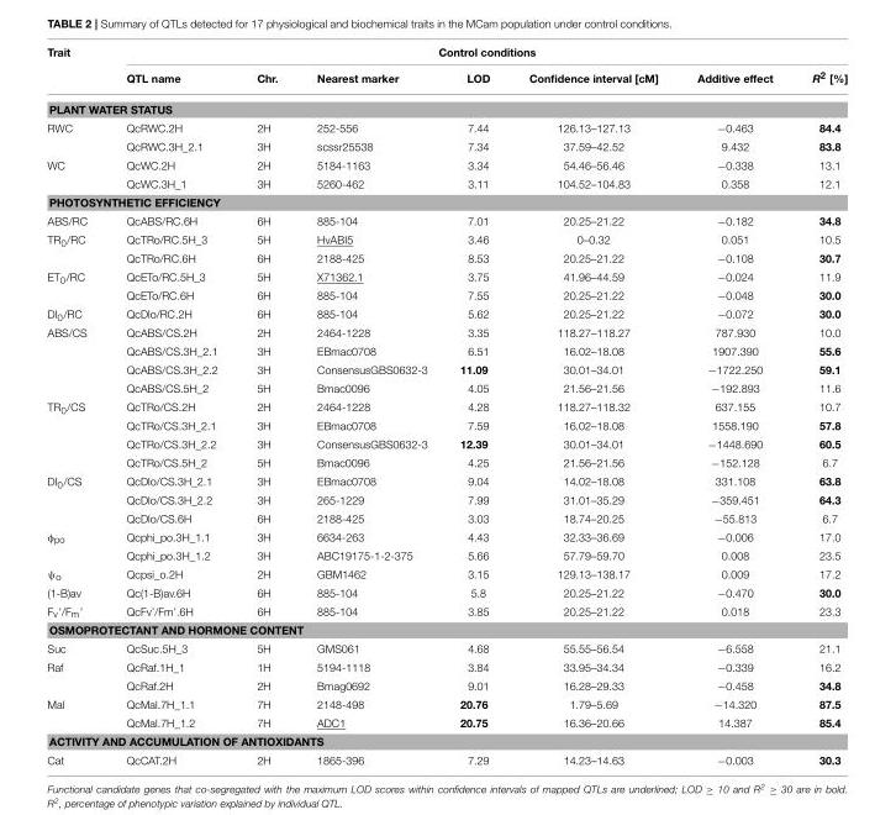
<table><thead><tr><td rowspan="2">Trait</td><td colspan="7">Control conditions</td></tr><tr><td>QTL name</td><td>Chr.</td><td>Nearest marker</td><td>LOD</td><td>Confidence interval [cM]</td><td>Additive effect</td><td>R<sup>2</sup> [%]</td></tr></thead><tbody><tr><td colspan="8">PLANT WATER STATUS</td></tr><tr><td rowspan="2">RWC</td><td>QcRWC.2H</td><td>2H</td><td>252-556</td><td>7.44</td><td>126.13–127.13</td><td>−0.463</td><td>84.4</td></tr><tr><td>QcRWC.3H_2.1</td><td>3H</td><td>scssr25538</td><td>7.34</td><td>37.59–42.52</td><td>9.432</td><td>83.8</td></tr><tr><td rowspan="2">WC</td><td>QcWC.2H</td><td>2H</td><td>5184-1163</td><td>3.34</td><td>54.46–56.46</td><td>−0.338</td><td>13.1</td></tr><tr><td>QcWC.3H_1</td><td>3H</td><td>5260-462</td><td>3.11</td><td>104.52–104.83</td><td>0.358</td><td>12.1</td></tr><tr><td colspan="8">PHOTOSYNTHETIC EFFICIENCY</td></tr><tr><td>ABS/RC</td><td>QcABS/RC.6H</td><td>6H</td><td>885-104</td><td>7.01</td><td>20.25–21.22</td><td>−0.182</td><td>34.8</td></tr><tr><td rowspan="2">TR<sub>0</sub>/RC</td><td>QcTRo/RC.5H_3</td><td>5H</td><td>HvABI5</td><td>3.46</td><td>0–0.32</td><td>0.051</td><td>10.5</td></tr><tr><td>QcTRo/RC.6H</td><td>6H</td><td>2188-425</td><td>8.53</td><td>20.25–21.22</td><td>−0.108</td><td>30.7</td></tr><tr><td rowspan="2">ET<sub>0</sub>/RC</td><td>QcETo/RC.5H_3</td><td>5H</td><td>X71362.1</td><td>3.75</td><td>41.96–44.59</td><td>−0.024</td><td>11.9</td></tr><tr><td>QcETo/RC.6H</td><td>6H</td><td>885-104</td><td>7.55</td><td>20.25–21.22</td><td>−0.048</td><td>30.0</td></tr><tr><td>DI<sub>0</sub>/RC</td><td>QcDlo/RC.2H</td><td>6H</td><td>885-104</td><td>5.62</td><td>20.25–21.22</td><td>−0.072</td><td>30.0</td></tr><tr><td rowspan="4">ABS/CS</td><td>QcABS/CS.2H</td><td>2H</td><td>2464-1228</td><td>3.35</td><td>118.27–118.27</td><td>787.930</td><td>10.0</td></tr><tr><td>QcABS/CS.3H_2.1</td><td>3H</td><td>EBmac0708</td><td>6.51</td><td>16.02–18.08</td><td>1907.390</td><td>55.6</td></tr><tr><td>QcABS/CS.3H_2.2</td><td>3H</td><td>ConsensusGBS0632-3</td><td>11.09</td><td>30.01–34.01</td><td>−1722.250</td><td>59.1</td></tr><tr><td>QcABS/CS.5H_2</td><td>5H</td><td>Bmac0096</td><td>4.05</td><td>21.56–21.56</td><td>−192.893</td><td>11.6</td></tr><tr><td rowspan="4">TR<sub>0</sub>/CS</td><td>QcTRo/CS.2H</td><td>2H</td><td>2464-1228</td><td>4.28</td><td>118.27–118.32</td><td>637.155</td><td>10.7</td></tr><tr><td>QcTRo/CS.3H_2.1</td><td>3H</td><td>EBmac0708</td><td>7.59</td><td>16.02–18.08</td><td>1558.190</td><td>57.8</td></tr><tr><td>QcTRo/CS.3H_2.2</td><td>3H</td><td>ConsensusGBS0632-3</td><td>12.39</td><td>30.01–34.01</td><td>−1448.690</td><td>60.5</td></tr><tr><td>QcTRo/CS.5H_2</td><td>5H</td><td>Bmac0096</td><td>4.25</td><td>21.56–21.56</td><td>−152.128</td><td>6.7</td></tr><tr><td rowspan="3">DI<sub>0</sub>/CS</td><td>QcDlo/CS.3H_2.1</td><td>3H</td><td>EBmac0708</td><td>9.04</td><td>14.02–18.08</td><td>331.108</td><td>63.8</td></tr><tr><td>QcDlo/CS.3H_2.2</td><td>3H</td><td>265-1229</td><td>7.99</td><td>31.01–35.29</td><td>−359.451</td><td>64.3</td></tr><tr><td>QcDlo/CS.6H</td><td>6H</td><td>2188-425</td><td>3.03</td><td>18.74–20.25</td><td>−55.813</td><td>6.7</td></tr><tr><td rowspan="2">φ<sub>po</sub></td><td>Qcphi_po.3H_1.1</td><td>3H</td><td>6634-263</td><td>4.43</td><td>32.33–36.69</td><td>−0.006</td><td>17.0</td></tr><tr><td>Qcphi_po.3H_1.2</td><td>3H</td><td>ABC19175-1-2-375</td><td>5.66</td><td>57.79–59.70</td><td>0.008</td><td>23.5</td></tr><tr><td>ψ<sub>o</sub></td><td>Qcpsi_o.2H</td><td>2H</td><td>GBM1462</td><td>3.15</td><td>129.13–138.17</td><td>0.009</td><td>17.2</td></tr><tr><td>(1-B)av</td><td>Qc(1-B)av.6H</td><td>6H</td><td>885-104</td><td>5.8</td><td>20.25–21.22</td><td>−0.470</td><td>30.0</td></tr><tr><td>F<sub>v</sub>’/F<sub>m</sub>’</td><td>QcFv’/Fm’.6H</td><td>6H</td><td>885-104</td><td>3.85</td><td>20.25–21.22</td><td>0.018</td><td>23.3</td></tr><tr><td colspan="8">OSMOPROTECTANT AND HORMONE CONTENT</td></tr><tr><td>Suc</td><td>QcSuc.5H_3</td><td>5H</td><td>GMS061</td><td>4.68</td><td>55.55–56.54</td><td>−6.558</td><td>21.1</td></tr><tr><td rowspan="2">Raf</td><td>QcRaf.1H_1</td><td>1H</td><td>5194-1118</td><td>3.84</td><td>33.95–34.34</td><td>−0.339</td><td>16.2</td></tr><tr><td>QcRaf.2H</td><td>2H</td><td>Bmag0692</td><td>9.01</td><td>16.28–29.33</td><td>−0.458</td><td>34.8</td></tr><tr><td rowspan="2">Mal</td><td>QcMal.7H_1.1</td><td>7H</td><td>2148-498</td><td>20.76</td><td>1.79–5.69</td><td>−14.320</td><td>87.5</td></tr><tr><td>QcMal.7H_1.2</td><td>7H</td><td>ADC1</td><td>20.75</td><td>16.36–20.66</td><td>14.387</td><td>85.4</td></tr><tr><td colspan="8">ACTIVITY AND ACCUMULATION OF ANTIOXIDANTS</td></tr><tr><td>Cat</td><td>QcCAT.2H</td><td>2H</td><td>1865-396</td><td>7.29</td><td>14.23–14.63</td><td>−0.003</td><td>30.3</td></tr></tbody></table>